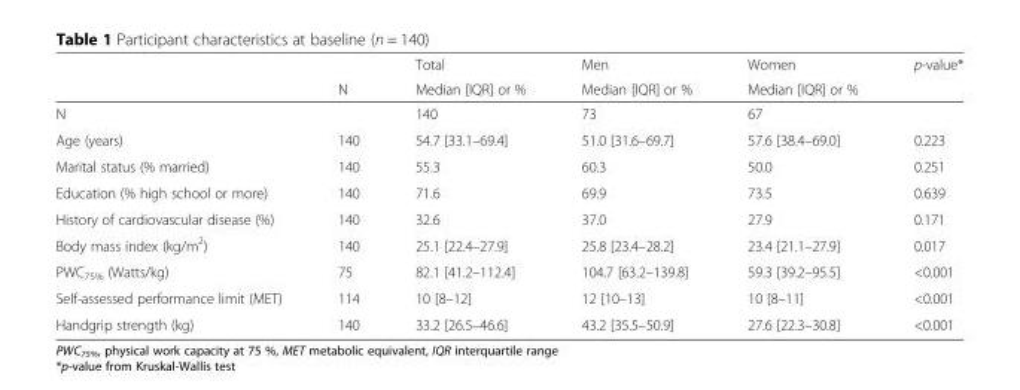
<table><thead><tr><td rowspan="2"></td><td rowspan="2">N</td><td rowspan="2">Total Median [IQR] or %</td><td rowspan="2">Men Median [IQR] or %</td><td rowspan="2">Women Median [IQR] or %</td><td rowspan="2">p-value*</td></tr><tr></tr></thead><tbody><tr><td>N</td><td></td><td>140</td><td>73</td><td>67</td><td></td></tr><tr><td>Age (years)</td><td>140</td><td>54.7 [33.1–69.4]</td><td>51.0 [31.6–69.7]</td><td>57.6 [38.4–69.0]</td><td>0.223</td></tr><tr><td>Marital status (% married)</td><td>140</td><td>55.3</td><td>60.3</td><td>50.0</td><td>0.251</td></tr><tr><td>Education (% high school or more)</td><td>140</td><td>71.6</td><td>69.9</td><td>73.5</td><td>0.639</td></tr><tr><td>History of cardiovascular disease (%)</td><td>140</td><td>32.6</td><td>37.0</td><td>27.9</td><td>0.171</td></tr><tr><td>Body mass index (kg/m<sup>2</sup>)</td><td>140</td><td>25.1 [22.4–27.9]</td><td>25.8 [23.4–28.2]</td><td>23.4 [21.1–27.9]</td><td>0.017</td></tr><tr><td>PWC<sub>75%</sub> (Watts/kg)</td><td>75</td><td>82.1 [41.2–112.4]</td><td>104.7 [63.2–139.8]</td><td>59.3 [39.2–95.5]</td><td>&lt;0.001</td></tr><tr><td>Self-assessed performance limit (MET)</td><td>114</td><td>10 [8–12]</td><td>12 [10–13]</td><td>10 [8–11]</td><td>&lt;0.001</td></tr><tr><td>Handgrip strength (kg)</td><td>140</td><td>33.2 [26.5–46.6]</td><td>43.2 [35.5–50.9]</td><td>27.6 [22.3–30.8]</td><td>&lt;0.001</td></tr></tbody></table>